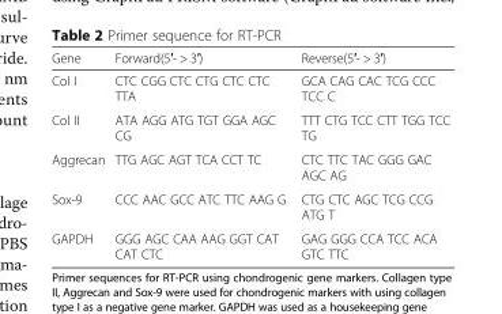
<table><thead><tr><td>Gene</td><td>Forward(5′- &gt; 3′)</td><td>Reverse(5′- &gt; 3′)</td></tr></thead><tbody><tr><td>Col I</td><td>CTC CGG CTC CTG CTC CTC TTA</td><td>GCA CAG CAC TCG CCC TCC C</td></tr><tr><td>Col II</td><td>ATA AGG ATG TGT GGA AGC CG</td><td>TTT CTG TCC CTT TGG TCC TG</td></tr><tr><td>Aggrecan</td><td>TTG AGC AGT TCA CCT TC</td><td>CTC TTC TAC GGG GAC AGC AG</td></tr><tr><td>Sox-9</td><td>CCC AAC GCC ATC TTC AAG G</td><td>CTG CTC AGC TCG CCG ATG T</td></tr><tr><td>GAPDH</td><td>GGG AGC CAA AAG GGT CAT CAT CTC</td><td>GAG GGG CCA TCC ACA GTC TTC</td></tr></tbody></table>